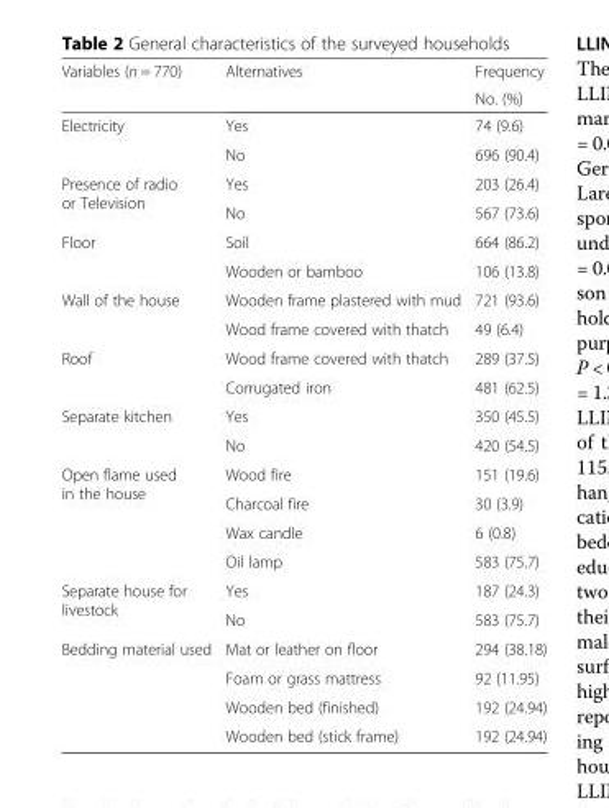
<table><thead><tr><td rowspan="2">Variables (n = 770)</td><td rowspan="2">Alternatives</td><td rowspan="2">Frequency No. (%)</td></tr><tr></tr></thead><tbody><tr><td rowspan="2">Electricity</td><td>Yes</td><td>74 (9.6)</td></tr><tr><td>No</td><td>696 (90.4)</td></tr><tr><td rowspan="2">Presence of radio or Television</td><td>Yes</td><td>203 (26.4)</td></tr><tr><td>No</td><td>567 (73.6)</td></tr><tr><td rowspan="2">Floor</td><td>Soil</td><td>664 (86.2)</td></tr><tr><td>Wooden or bamboo</td><td>106 (13.8)</td></tr><tr><td rowspan="2">Wall of the house</td><td>Wooden frame plastered with mud</td><td>721 (93.6)</td></tr><tr><td>Wood frame covered with thatch</td><td>49 (6.4)</td></tr><tr><td rowspan="2">Roof</td><td>Wood frame covered with thatch</td><td>289 (37.5)</td></tr><tr><td>Corrugated iron</td><td>481 (62.5)</td></tr><tr><td rowspan="2">Separate kitchen</td><td>Yes</td><td>350 (45.5)</td></tr><tr><td>No</td><td>420 (54.5)</td></tr><tr><td rowspan="4">Open flame used in the house</td><td>Wood fire</td><td>151 (19.6)</td></tr><tr><td>Charcoal fire</td><td>30 (3.9)</td></tr><tr><td>Wax candle</td><td>6 (0.8)</td></tr><tr><td>Oil lamp</td><td>583 (75.7)</td></tr><tr><td rowspan="2">Separate house for livestock</td><td>Yes</td><td>187 (24.3)</td></tr><tr><td>No</td><td>583 (75.7)</td></tr><tr><td rowspan="4">Bedding material used</td><td>Mat or leather on floor</td><td>294 (38.18)</td></tr><tr><td>Foam or grass mattress</td><td>92 (11.95)</td></tr><tr><td>Wooden bed (finished)</td><td>192 (24.94)</td></tr><tr><td>Wooden bed (stick frame)</td><td>192 (24.94)</td></tr></tbody></table>